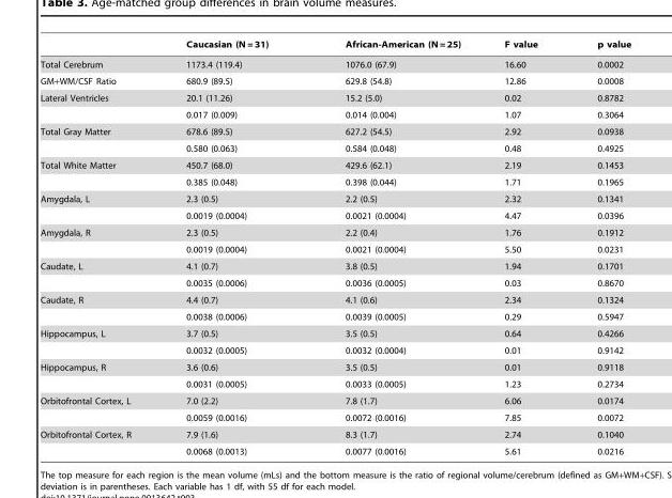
<table><thead><tr><td></td><td>Caucasian (N = 31)</td><td>African-American (N = 25)</td><td>F value</td><td>p value</td></tr></thead><tbody><tr><td>Total Cerebrum</td><td>1173.4 (119.4)</td><td>1076.0 (67.9)</td><td>16.60</td><td>0.0002</td></tr><tr><td>GM+WM/CSF Ratio</td><td>680.9 (89.5)</td><td>629.8 (54.8)</td><td>12.86</td><td>0.0008</td></tr><tr><td rowspan="2">Lateral Ventricles</td><td>20.1 (11.26)</td><td>15.2 (5.0)</td><td>0.02</td><td>0.8782</td></tr><tr><td>0.017 (0.009)</td><td>0.014 (0.004)</td><td>1.07</td><td>0.3064</td></tr><tr><td rowspan="2">Total Gray Matter</td><td>678.6 (89.5)</td><td>627.2 (54.5)</td><td>2.92</td><td>0.0938</td></tr><tr><td>0.580 (0.063)</td><td>0.584 (0.048)</td><td>0.48</td><td>0.4925</td></tr><tr><td rowspan="2">Total White Matter</td><td>450.7 (68.0)</td><td>429.6 (62.1)</td><td>2.19</td><td>0.1453</td></tr><tr><td>0.385 (0.048)</td><td>0.398 (0.044)</td><td>1.71</td><td>0.1965</td></tr><tr><td rowspan="2">Amygdala, L</td><td>2.3 (0.5)</td><td>2.2 (0.5)</td><td>2.32</td><td>0.1341</td></tr><tr><td>0.0019 (0.0004)</td><td>0.0021 (0.0004)</td><td>4.47</td><td>0.0396</td></tr><tr><td rowspan="2">Amygdala, R</td><td>2.3 (0.5)</td><td>2.2 (0.4)</td><td>1.76</td><td>0.1912</td></tr><tr><td>0.0019 (0.0004)</td><td>0.0021 (0.0004)</td><td>5.50</td><td>0.0231</td></tr><tr><td rowspan="2">Caudate, L</td><td>4.1 (0.7)</td><td>3.8 (0.5)</td><td>1.94</td><td>0.1701</td></tr><tr><td>0.0035 (0.0006)</td><td>0.0036 (0.0005)</td><td>0.03</td><td>0.8670</td></tr><tr><td rowspan="2">Caudate, R</td><td>4.4 (0.7)</td><td>4.1 (0.6)</td><td>2.34</td><td>0.1324</td></tr><tr><td>0.0038 (0.0006)</td><td>0.0039 (0.0005)</td><td>0.29</td><td>0.5947</td></tr><tr><td rowspan="2">Hippocampus, L</td><td>3.7 (0.5)</td><td>3.5 (0.5)</td><td>0.64</td><td>0.4266</td></tr><tr><td>0.0032 (0.0005)</td><td>0.0032 (0.0004)</td><td>0.01</td><td>0.9142</td></tr><tr><td rowspan="2">Hippocampus, R</td><td>3.6 (0.6)</td><td>3.5 (0.5)</td><td>0.01</td><td>0.9118</td></tr><tr><td>0.0031 (0.0005)</td><td>0.0033 (0.0005)</td><td>1.23</td><td>0.2734</td></tr><tr><td rowspan="2">Orbitofrontal Cortex, L</td><td>7.0 (2.2)</td><td>7.8 (1.7)</td><td>6.06</td><td>0.0174</td></tr><tr><td>0.0059 (0.0016)</td><td>0.0072 (0.0016)</td><td>7.85</td><td>0.0072</td></tr><tr><td rowspan="2">Orbitofrontal Cortex, R</td><td>7.9 (1.6)</td><td>8.3 (1.7)</td><td>2.74</td><td>0.1040</td></tr><tr><td>0.0068 (0.0013)</td><td>0.0077 (0.0016)</td><td>5.61</td><td>0.0216</td></tr></tbody></table>